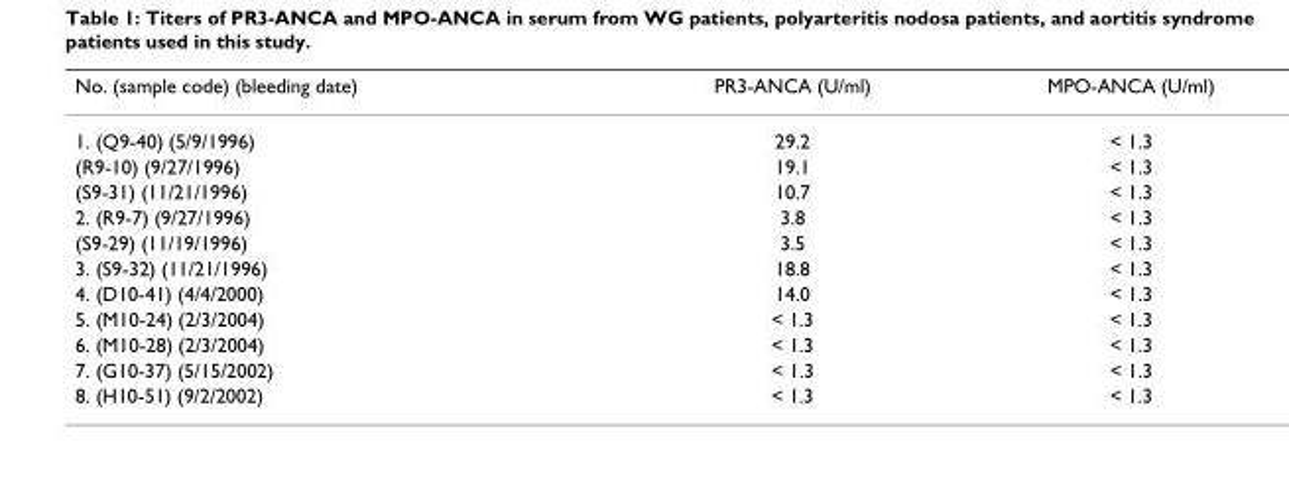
<table><thead><tr><td>No. (sample code) (bleeding date)</td><td>PR3-ANCA (U/ml)</td><td>MPO-ANCA (U/ml)</td></tr></thead><tbody><tr><td>1. (Q9-40) (5/9/1996)</td><td>29.2</td><td>&lt; 1.3</td></tr><tr><td>(R9-10) (9/27/1996)</td><td>19.1</td><td>&lt; 1.3</td></tr><tr><td>(S9-31) (11/21/1996)</td><td>10.7</td><td>&lt; 1.3</td></tr><tr><td>2. (R9-7) (9/27/1996)</td><td>3.8</td><td>&lt; 1.3</td></tr><tr><td>(S9-29) (11/19/1996)</td><td>3.5</td><td>&lt; 1.3</td></tr><tr><td>3. (S9-32) (11/21/1996)</td><td>18.8</td><td>&lt; 1.3</td></tr><tr><td>4. (D10-41) (4/4/2000)</td><td>14.0</td><td>&lt; 1.3</td></tr><tr><td>5. (M10-24) (2/3/2004)</td><td>&lt; 1.3</td><td>&lt; 1.3</td></tr><tr><td>6. (M10-28) (2/3/2004)</td><td>&lt; 1.3</td><td>&lt; 1.3</td></tr><tr><td>7. (G10-37) (5/15/2002)</td><td>&lt; 1.3</td><td>&lt; 1.3</td></tr><tr><td>8. (H10-51) (9/2/2002)</td><td>&lt; 1.3</td><td>&lt; 1.3</td></tr></tbody></table>